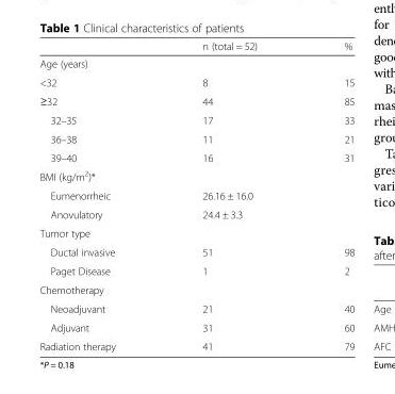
<table><thead><tr><td></td><td>n (total = 52)</td><td>%</td></tr></thead><tbody><tr><td colspan="3">Age (years)</td></tr><tr><td>&lt;32</td><td>8</td><td>15</td></tr><tr><td>≥32</td><td>44</td><td>85</td></tr><tr><td>32–35</td><td>17</td><td>33</td></tr><tr><td>36–38</td><td>11</td><td>21</td></tr><tr><td>39–40</td><td>16</td><td>31</td></tr><tr><td colspan="3">BMI (kg/m<sup>2</sup>)*</td></tr><tr><td>Eumenorrheic</td><td>26.16 ± 16.0</td><td></td></tr><tr><td>Anovulatory</td><td>24.4 ± 3.3</td><td></td></tr><tr><td colspan="3">Tumor type</td></tr><tr><td>Ductal invasive</td><td>51</td><td>98</td></tr><tr><td>Paget Disease</td><td>1</td><td>2</td></tr><tr><td colspan="3">Chemotherapy</td></tr><tr><td>Neoadjuvant</td><td>21</td><td>40</td></tr><tr><td>Adjuvant</td><td>31</td><td>60</td></tr><tr><td>Radiation therapy</td><td>41</td><td>79</td></tr></tbody></table>